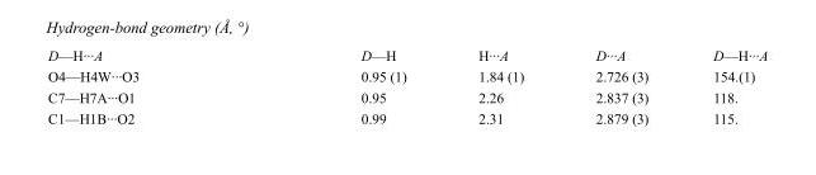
<table><tbody><tr><td>D—H···A</td><td>D—H</td><td>H···A</td><td>D···A</td><td>D—H···A</td></tr><tr><td>O4—H4W···O3</td><td>0.95 (1)</td><td>1.84 (1)</td><td>2.726 (3)</td><td>154.(1)</td></tr><tr><td>C7—H7A···O1</td><td>0.95</td><td>2.26</td><td>2.837 (3)</td><td>118.</td></tr><tr><td>C1—H1B···O2</td><td>0.99</td><td>2.31</td><td>2.879 (3)</td><td>115.</td></tr></tbody></table>